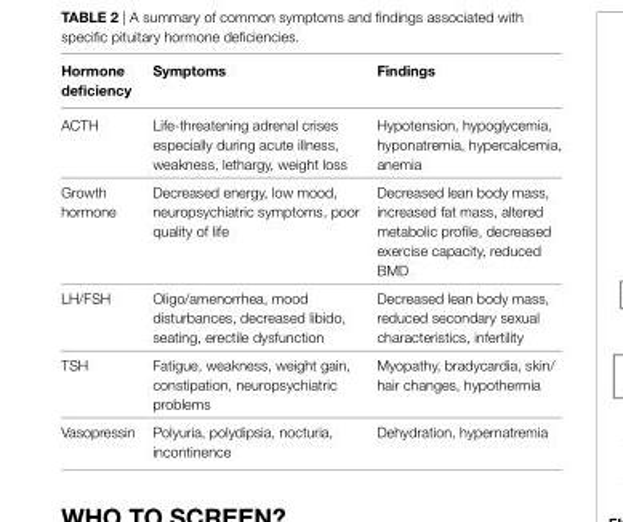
<table><thead><tr><td>Hormone deficiency</td><td>Symptoms</td><td>Findings</td></tr></thead><tbody><tr><td>ACTH</td><td>Life-threatening adrenal crises especially during acute illness, weakness, lethargy, weight loss</td><td>Hypotension, hypoglycemia, hyponatremia, hypercalcemia, anemia</td></tr><tr><td>Growth hormone</td><td>Decreased energy, low mood, neuropsychiatric symptoms, poor quality of life</td><td>Decreased lean body mass, increased fat mass, altered metabolic profile, decreased exercise capacity, reduced BMD</td></tr><tr><td>LH/FSH</td><td>Oligo/amenorrhea, mood disturbances, decreased libido, seating, erectile dysfunction</td><td>Decreased lean body mass, reduced secondary sexual characteristics, infertility</td></tr><tr><td>TSH</td><td>Fatigue, weakness, weight gain, constipation, neuropsychiatric problems</td><td>Myopathy, bradycardia, skin/ hair changes, hypothermia</td></tr><tr><td>Vasopressin</td><td>Polyuria, polydipsia, nocturia, incontinence</td><td>Dehydration, hypernatremia</td></tr></tbody></table>